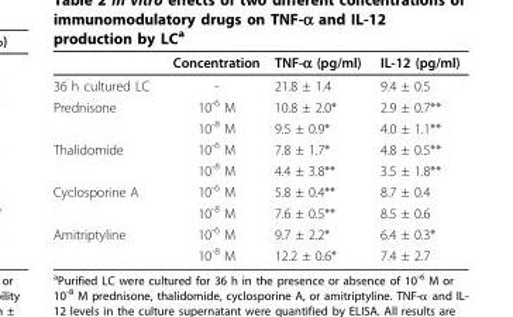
<table><thead><tr><td></td><td>Concentration</td><td>TNF-α (pg/ml)</td><td>IL-12 (pg/ml)</td></tr></thead><tbody><tr><td>36 h cultured LC</td><td>-</td><td>21.8 ± 1.4</td><td>9.4 ± 0.5</td></tr><tr><td rowspan="2">Prednisone</td><td>10<sup>-6</sup> M</td><td>10.8 ± 2.0*</td><td>2.9 ± 0.7**</td></tr><tr><td>10<sup>-8</sup> M</td><td>9.5 ± 0.9*</td><td>4.0 ± 1.1**</td></tr><tr><td rowspan="2">Thalidomide</td><td>10<sup>-6</sup> M</td><td>7.8 ± 1.7*</td><td>4.8 ± 0.5**</td></tr><tr><td>10<sup>-8</sup> M</td><td>4.4 ± 3.8**</td><td>3.5 ± 1.8**</td></tr><tr><td rowspan="2">Cyclosporine A</td><td>10<sup>-6</sup> M</td><td>5.8 ± 0.4**</td><td>8.7 ± 0.4</td></tr><tr><td>10<sup>-8</sup> M</td><td>7.6 ± 0.5**</td><td>8.5 ± 0.6</td></tr><tr><td rowspan="2">Amitriptyline</td><td>10<sup>-6</sup> M</td><td>9.7 ± 2.2*</td><td>6.4 ± 0.3*</td></tr><tr><td>10<sup>-8</sup> M</td><td>12.2 ± 0.6*</td><td>7.4 ± 2.7</td></tr></tbody></table>